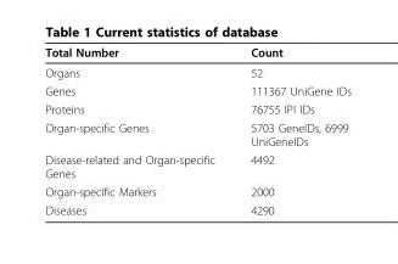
<table><thead><tr><td>Total Number</td><td>Count</td></tr></thead><tbody><tr><td>Organs</td><td>52</td></tr><tr><td>Genes</td><td>111367 UniGene IDs</td></tr><tr><td>Proteins</td><td>76755 IPI IDs</td></tr><tr><td>Organ-specific Genes</td><td>5703 GeneIDs, 6999 UniGeneIDs</td></tr><tr><td>Disease-related and Organ-specific Genes</td><td>4492</td></tr><tr><td>Organ-specific Markers</td><td>2000</td></tr><tr><td>Diseases</td><td>4290</td></tr></tbody></table>